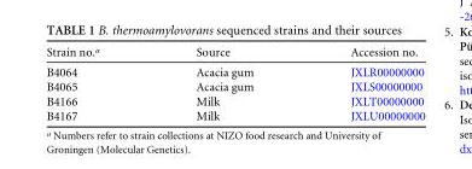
<table><thead><tr><td>Strain no.<sup>a</sup></td><td>Source</td><td>Accession no.</td></tr></thead><tbody><tr><td>B4064</td><td>Acacia gum</td><td>JXLR00000000</td></tr><tr><td>B4065</td><td>Acacia gum</td><td>JXLS00000000</td></tr><tr><td>B4166</td><td>Milk</td><td>JXLT00000000</td></tr><tr><td>B4167</td><td>Milk</td><td>JXLU00000000</td></tr></tbody></table>